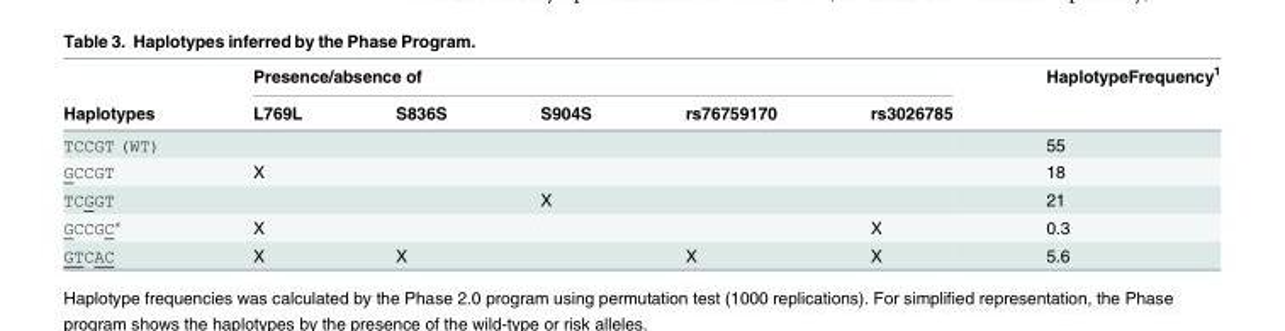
<table><thead><tr><td rowspan="2">Haplotypes</td><td colspan="5">Presence/absence of</td><td rowspan="2">HaplotypeFrequency<sup>1</sup></td></tr><tr><td>L769L</td><td>S836S</td><td>S904S</td><td>rs76759170</td><td>rs3026785</td></tr></thead><tbody><tr><td>TCCGT (WT)</td><td></td><td></td><td></td><td></td><td></td><td>55</td></tr><tr><td>GCCGT</td><td>X</td><td></td><td></td><td></td><td></td><td>18</td></tr><tr><td>TCGGT</td><td></td><td></td><td>X</td><td></td><td></td><td>21</td></tr><tr><td>GCCGC*</td><td>X</td><td></td><td></td><td></td><td>X</td><td>0.3</td></tr><tr><td>GTCAC</td><td>X</td><td>X</td><td></td><td>X</td><td>X</td><td>5.6</td></tr></tbody></table>